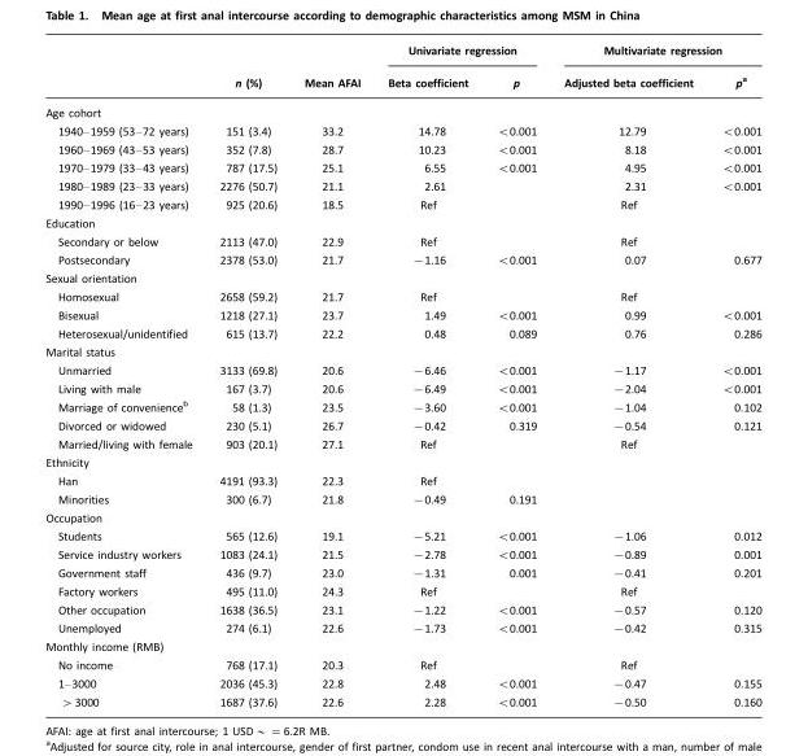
<table><thead><tr><td rowspan="2"></td><td rowspan="2">n (%)</td><td rowspan="2">Mean AFAI</td><td colspan="2">Univariate regression</td><td colspan="2">Multivariate regression</td></tr><tr><td>Beta coefficient</td><td>p</td><td>Adjusted beta coefficient</td><td>p<sup>a</sup></td></tr></thead><tbody><tr><td colspan="7">Age cohort</td></tr><tr><td>1940–1959 (53–72 years)</td><td>151 (3.4)</td><td>33.2</td><td>14.78</td><td>&lt;0.001</td><td>12.79</td><td>&lt;0.001</td></tr><tr><td>1960–1969 (43–53 years)</td><td>352 (7.8)</td><td>28.7</td><td>10.23</td><td>&lt;0.001</td><td>8.18</td><td>&lt;0.001</td></tr><tr><td>1970–1979 (33–43 years)</td><td>787 (17.5)</td><td>25.1</td><td>6.55</td><td>&lt;0.001</td><td>4.95</td><td>&lt;0.001</td></tr><tr><td>1980–1989 (23–33 years)</td><td>2276 (50.7)</td><td>21.1</td><td>2.61</td><td></td><td>2.31</td><td>&lt;0.001</td></tr><tr><td>1990–1996 (16–23 years)</td><td>925 (20.6)</td><td>18.5</td><td>Ref</td><td></td><td>Ref</td><td></td></tr><tr><td colspan="7">Education</td></tr><tr><td>Secondary or below</td><td>2113 (47.0)</td><td>22.9</td><td>Ref</td><td></td><td>Ref</td><td></td></tr><tr><td>Postsecondary</td><td>2378 (53.0)</td><td>21.7</td><td>−1.16</td><td>&lt;0.001</td><td>0.07</td><td>0.677</td></tr><tr><td colspan="7">Sexual orientation</td></tr><tr><td>Homosexual</td><td>2658 (59.2)</td><td>21.7</td><td>Ref</td><td></td><td>Ref</td><td></td></tr><tr><td>Bisexual</td><td>1218 (27.1)</td><td>23.7</td><td>1.49</td><td>&lt;0.001</td><td>0.99</td><td>&lt;0.001</td></tr><tr><td>Heterosexual/unidentified</td><td>615 (13.7)</td><td>22.2</td><td>0.48</td><td>0.089</td><td>0.76</td><td>0.286</td></tr><tr><td colspan="7">Marital status</td></tr><tr><td>Unmarried</td><td>3133 (69.8)</td><td>20.6</td><td>−6.46</td><td>&lt;0.001</td><td>−1.17</td><td>&lt;0.001</td></tr><tr><td>Living with male</td><td>167 (3.7)</td><td>20.6</td><td>−6.49</td><td>&lt;0.001</td><td>−2.04</td><td>&lt;0.001</td></tr><tr><td>Marriage of convenience<sup>b</sup></td><td>58 (1.3)</td><td>23.5</td><td>−3.60</td><td>&lt;0.001</td><td>−1.04</td><td>0.102</td></tr><tr><td>Divorced or widowed</td><td>230 (5.1)</td><td>26.7</td><td>−0.42</td><td>0.319</td><td>−0.54</td><td>0.121</td></tr><tr><td>Married/living with female</td><td>903 (20.1)</td><td>27.1</td><td>Ref</td><td></td><td>Ref</td><td></td></tr><tr><td colspan="7">Ethnicity</td></tr><tr><td>Han</td><td>4191 (93.3)</td><td>22.3</td><td>Ref</td><td></td><td></td><td></td></tr><tr><td>Minorities</td><td>300 (6.7)</td><td>21.8</td><td>−0.49</td><td>0.191</td><td></td><td></td></tr><tr><td colspan="7">Occupation</td></tr><tr><td>Students</td><td>565 (12.6)</td><td>19.1</td><td>−5.21</td><td>&lt;0.001</td><td>−1.06</td><td>0.012</td></tr><tr><td>Service industry workers</td><td>1083 (24.1)</td><td>21.5</td><td>−2.78</td><td>&lt;0.001</td><td>−0.89</td><td>0.001</td></tr><tr><td>Government staff</td><td>436 (9.7)</td><td>23.0</td><td>−1.31</td><td>0.001</td><td>−0.41</td><td>0.201</td></tr><tr><td>Factory workers</td><td>495 (11.0)</td><td>24.3</td><td>Ref</td><td></td><td>Ref</td><td></td></tr><tr><td>Other occupation</td><td>1638 (36.5)</td><td>23.1</td><td>−1.22</td><td>&lt;0.001</td><td>−0.57</td><td>0.120</td></tr><tr><td>Unemployed</td><td>274 (6.1)</td><td>22.6</td><td>−1.73</td><td>&lt;0.001</td><td>−0.42</td><td>0.315</td></tr><tr><td colspan="7">Monthly income (RMB)</td></tr><tr><td>No income</td><td>768 (17.1)</td><td>20.3</td><td>Ref</td><td></td><td>Ref</td><td></td></tr><tr><td>1–3000</td><td>2036 (45.3)</td><td>22.8</td><td>2.48</td><td>&lt;0.001</td><td>−0.47</td><td>0.155</td></tr><tr><td>&gt;3000</td><td>1687 (37.6)</td><td>22.6</td><td>2.28</td><td>&lt;0.001</td><td>−0.50</td><td>0.160</td></tr></tbody></table>